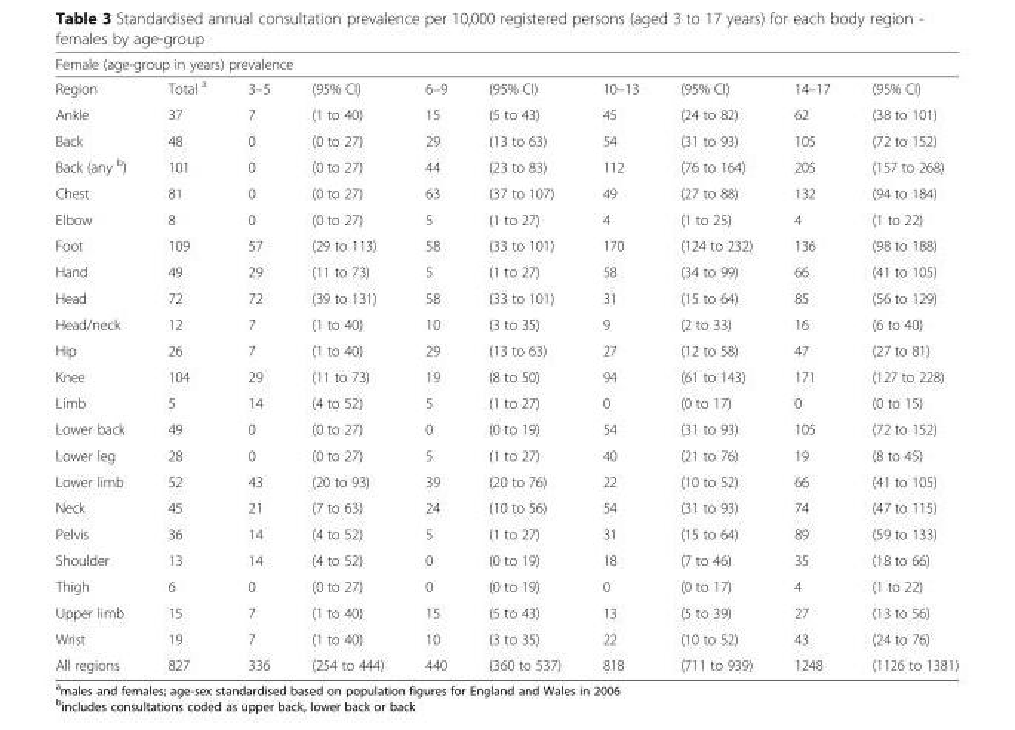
<table><thead><tr><td colspan="10">Female (age-group in years) prevalence</td></tr><tr><td>Region</td><td>Total <sup>a</sup></td><td>3–5</td><td>(95% CI)</td><td>6–9</td><td>(95% CI)</td><td>10–13</td><td>(95% CI)</td><td>14–17</td><td>(95% CI)</td></tr></thead><tbody><tr><td>Ankle</td><td>37</td><td>7</td><td>(1 to 40)</td><td>15</td><td>(5 to 43)</td><td>45</td><td>(24 to 82)</td><td>62</td><td>(38 to 101)</td></tr><tr><td>Back</td><td>48</td><td>0</td><td>(0 to 27)</td><td>29</td><td>(13 to 63)</td><td>54</td><td>(31 to 93)</td><td>105</td><td>(72 to 152)</td></tr><tr><td>Back (any <sup>b</sup>)</td><td>101</td><td>0</td><td>(0 to 27)</td><td>44</td><td>(23 to 83)</td><td>112</td><td>(76 to 164)</td><td>205</td><td>(157 to 268)</td></tr><tr><td>Chest</td><td>81</td><td>0</td><td>(0 to 27)</td><td>63</td><td>(37 to 107)</td><td>49</td><td>(27 to 88)</td><td>132</td><td>(94 to 184)</td></tr><tr><td>Elbow</td><td>8</td><td>0</td><td>(0 to 27)</td><td>5</td><td>(1 to 27)</td><td>4</td><td>(1 to 25)</td><td>4</td><td>(1 to 22)</td></tr><tr><td>Foot</td><td>109</td><td>57</td><td>(29 to 113)</td><td>58</td><td>(33 to 101)</td><td>170</td><td>(124 to 232)</td><td>136</td><td>(98 to 188)</td></tr><tr><td>Hand</td><td>49</td><td>29</td><td>(11 to 73)</td><td>5</td><td>(1 to 27)</td><td>58</td><td>(34 to 99)</td><td>66</td><td>(41 to 105)</td></tr><tr><td>Head</td><td>72</td><td>72</td><td>(39 to 131)</td><td>58</td><td>(33 to 101)</td><td>31</td><td>(15 to 64)</td><td>85</td><td>(56 to 129)</td></tr><tr><td>Head/neck</td><td>12</td><td>7</td><td>(1 to 40)</td><td>10</td><td>(3 to 35)</td><td>9</td><td>(2 to 33)</td><td>16</td><td>(6 to 40)</td></tr><tr><td>Hip</td><td>26</td><td>7</td><td>(1 to 40)</td><td>29</td><td>(13 to 63)</td><td>27</td><td>(12 to 58)</td><td>47</td><td>(27 to 81)</td></tr><tr><td>Knee</td><td>104</td><td>29</td><td>(11 to 73)</td><td>19</td><td>(8 to 50)</td><td>94</td><td>(61 to 143)</td><td>171</td><td>(127 to 228)</td></tr><tr><td>Limb</td><td>5</td><td>14</td><td>(4 to 52)</td><td>5</td><td>(1 to 27)</td><td>0</td><td>(0 to 17)</td><td>0</td><td>(0 to 15)</td></tr><tr><td>Lower back</td><td>49</td><td>0</td><td>(0 to 27)</td><td>0</td><td>(0 to 19)</td><td>54</td><td>(31 to 93)</td><td>105</td><td>(72 to 152)</td></tr><tr><td>Lower leg</td><td>28</td><td>0</td><td>(0 to 27)</td><td>5</td><td>(1 to 27)</td><td>40</td><td>(21 to 76)</td><td>19</td><td>(8 to 45)</td></tr><tr><td>Lower limb</td><td>52</td><td>43</td><td>(20 to 93)</td><td>39</td><td>(20 to 76)</td><td>22</td><td>(10 to 52)</td><td>66</td><td>(41 to 105)</td></tr><tr><td>Neck</td><td>45</td><td>21</td><td>(7 to 63)</td><td>24</td><td>(10 to 56)</td><td>54</td><td>(31 to 93)</td><td>74</td><td>(47 to 115)</td></tr><tr><td>Pelvis</td><td>36</td><td>14</td><td>(4 to 52)</td><td>5</td><td>(1 to 27)</td><td>31</td><td>(15 to 64)</td><td>89</td><td>(59 to 133)</td></tr><tr><td>Shoulder</td><td>13</td><td>14</td><td>(4 to 52)</td><td>0</td><td>(0 to 19)</td><td>18</td><td>(7 to 46)</td><td>35</td><td>(18 to 66)</td></tr><tr><td>Thigh</td><td>6</td><td>0</td><td>(0 to 27)</td><td>0</td><td>(0 to 19)</td><td>0</td><td>(0 to 17)</td><td>4</td><td>(1 to 22)</td></tr><tr><td>Upper limb</td><td>15</td><td>7</td><td>(1 to 40)</td><td>15</td><td>(5 to 43)</td><td>13</td><td>(5 to 39)</td><td>27</td><td>(13 to 56)</td></tr><tr><td>Wrist</td><td>19</td><td>7</td><td>(1 to 40)</td><td>10</td><td>(3 to 35)</td><td>22</td><td>(10 to 52)</td><td>43</td><td>(24 to 76)</td></tr><tr><td>All regions</td><td>827</td><td>336</td><td>(254 to 444)</td><td>440</td><td>(360 to 537)</td><td>818</td><td>(711 to 939)</td><td>1248</td><td>(1126 to 1381)</td></tr></tbody></table>